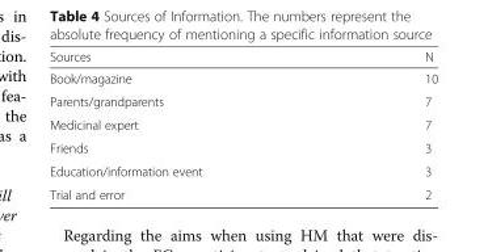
<table><thead><tr><td>Sources</td><td>N</td></tr></thead><tbody><tr><td>Book/magazine</td><td>10</td></tr><tr><td>Parents/grandparents</td><td>7</td></tr><tr><td>Medicinal expert</td><td>7</td></tr><tr><td>Friends</td><td>3</td></tr><tr><td>Education/information event</td><td>3</td></tr><tr><td>Trial and error</td><td>2</td></tr></tbody></table>